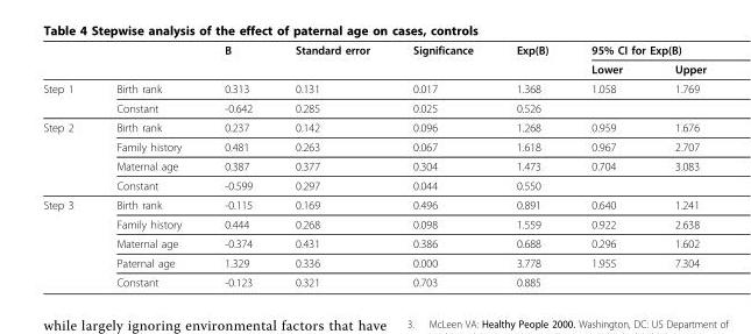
<table><thead><tr><td rowspan="2"></td><td rowspan="2"></td><td rowspan="2">B</td><td rowspan="2">Standard error</td><td rowspan="2">Significance</td><td rowspan="2">Exp(B)</td><td colspan="2">95% CI for Exp(B)</td></tr><tr><td>Lower</td><td>Upper</td></tr></thead><tbody><tr><td rowspan="2">Step 1</td><td>Birth rank</td><td>0.313</td><td>0.131</td><td>0.017</td><td>1.368</td><td>1.058</td><td>1.769</td></tr><tr><td>Constant</td><td>-0.642</td><td>0.285</td><td>0.025</td><td>0.526</td><td></td><td></td></tr><tr><td rowspan="4">Step 2</td><td>Birth rank</td><td>0.237</td><td>0.142</td><td>0.096</td><td>1.268</td><td>0.959</td><td>1.676</td></tr><tr><td>Family history</td><td>0.481</td><td>0.263</td><td>0.067</td><td>1.618</td><td>0.967</td><td>2.707</td></tr><tr><td>Maternal age</td><td>0.387</td><td>0.377</td><td>0.304</td><td>1.473</td><td>0.704</td><td>3.083</td></tr><tr><td>Constant</td><td>-0.599</td><td>0.297</td><td>0.044</td><td>0.550</td><td></td><td></td></tr><tr><td rowspan="5">Step 3</td><td>Birth rank</td><td>-0.115</td><td>0.169</td><td>0.496</td><td>0.891</td><td>0.640</td><td>1.241</td></tr><tr><td>Family history</td><td>0.444</td><td>0.268</td><td>0.098</td><td>1.559</td><td>0.922</td><td>2.638</td></tr><tr><td>Maternal age</td><td>-0.374</td><td>0.431</td><td>0.386</td><td>0.688</td><td>0.296</td><td>1.602</td></tr><tr><td>Paternal age</td><td>1.329</td><td>0.336</td><td>0.000</td><td>3.778</td><td>1.955</td><td>7.304</td></tr><tr><td>Constant</td><td>-0.123</td><td>0.321</td><td>0.703</td><td>0.885</td><td></td><td></td></tr></tbody></table>